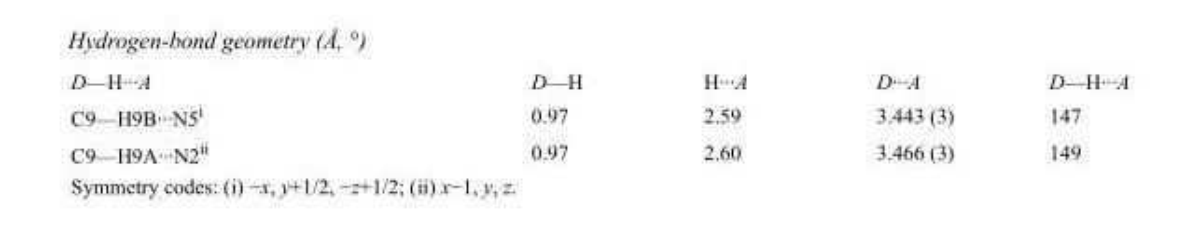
<table><tbody><tr><td>D—H···A</td><td>D—H</td><td>H···A</td><td>D···A</td><td>D—H···A</td></tr><tr><td>C9—H9B···N5<sup>i</sup></td><td>0.97</td><td>2.59</td><td>3.443 (3)</td><td>147</td></tr><tr><td>C9—H9A···N2<sup>ii</sup></td><td>0.97</td><td>2.60</td><td>3.466 (3)</td><td>149</td></tr></tbody></table>